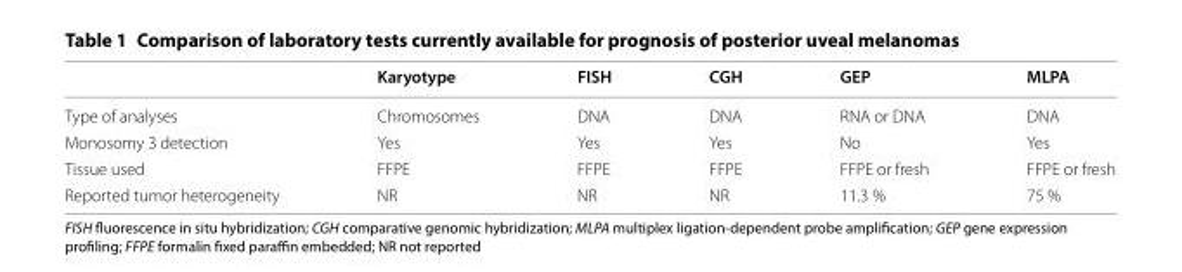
<table><thead><tr><td></td><td>Karyotype</td><td>FISH</td><td>CGH</td><td>GEP</td><td>MLPA</td></tr></thead><tbody><tr><td>Type of analyses</td><td>Chromosomes</td><td>DNA</td><td>DNA</td><td>RNA or DNA</td><td>DNA</td></tr><tr><td>Monosomy 3 detection</td><td>Yes</td><td>Yes</td><td>Yes</td><td>No</td><td>Yes</td></tr><tr><td>Tissue used</td><td>FFPE</td><td>FFPE</td><td>FFPE</td><td>FFPE or fresh</td><td>FFPE or fresh</td></tr><tr><td>Reported tumor heterogeneity</td><td>NR</td><td>NR</td><td>NR</td><td>11.3 %</td><td>75 %</td></tr></tbody></table>